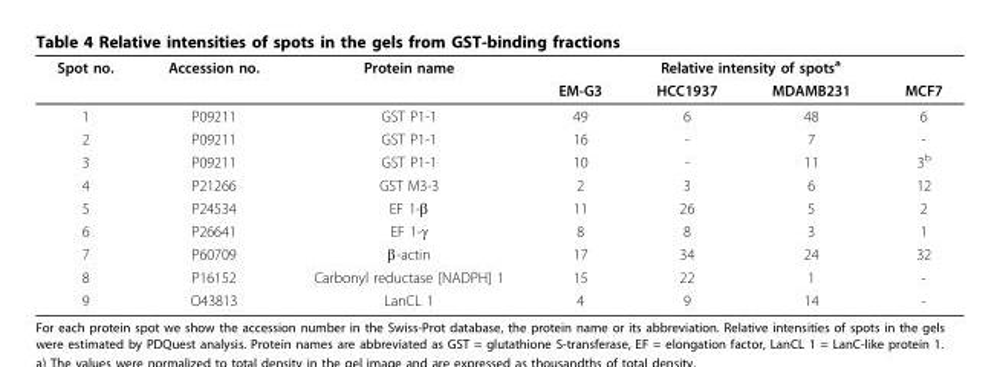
<table><thead><tr><td rowspan="2">Spot no.</td><td rowspan="2">Accession no.</td><td rowspan="2">Protein name</td><td colspan="4">Relative intensity of spots<sup>a</sup></td></tr><tr><td>EM-G3</td><td>HCC1937</td><td>MDAMB231</td><td>MCF7</td></tr></thead><tbody><tr><td>1</td><td>P09211</td><td>GST P1-1</td><td>49</td><td>6</td><td>48</td><td>6</td></tr><tr><td>2</td><td>P09211</td><td>GST P1-1</td><td>16</td><td>-</td><td>7</td><td>-</td></tr><tr><td>3</td><td>P09211</td><td>GST P1-1</td><td>10</td><td>-</td><td>11</td><td>3<sup>b</sup></td></tr><tr><td>4</td><td>P21266</td><td>GST M3-3</td><td>2</td><td>3</td><td>6</td><td>12</td></tr><tr><td>5</td><td>P24534</td><td>EF 1-β</td><td>11</td><td>26</td><td>5</td><td>2</td></tr><tr><td>6</td><td>P26641</td><td>EF 1-γ</td><td>8</td><td>8</td><td>3</td><td>1</td></tr><tr><td>7</td><td>P60709</td><td>β-actin</td><td>17</td><td>34</td><td>24</td><td>32</td></tr><tr><td>8</td><td>P16152</td><td>Carbonyl reductase [NADPH] 1</td><td>15</td><td>22</td><td>1</td><td>-</td></tr><tr><td>9</td><td>O43813</td><td>LanCL 1</td><td>4</td><td>9</td><td>14</td><td>-</td></tr></tbody></table>